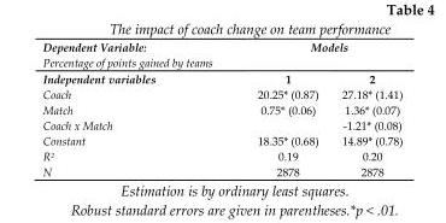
<table><thead><tr><td rowspan="2">Dependent Variable: Percentage of points gained by teams Independent variables</td><td colspan="2">Models</td></tr><tr><td>1</td><td>2</td></tr></thead><tbody><tr><td>Coach</td><td>20.25* (0.87)</td><td>27.18* (1.41)</td></tr><tr><td>Match</td><td>0.75* (0.06)</td><td>1.36* (0.07)</td></tr><tr><td>Coach x Match</td><td></td><td>-1.21* (0.08)</td></tr><tr><td>Constant</td><td>18.35* (0.68)</td><td>14.89* (0.78)</td></tr><tr><td>R<sup>2</sup></td><td>0.19</td><td>0.20</td></tr><tr><td>N</td><td>2878</td><td>2878</td></tr></tbody></table>